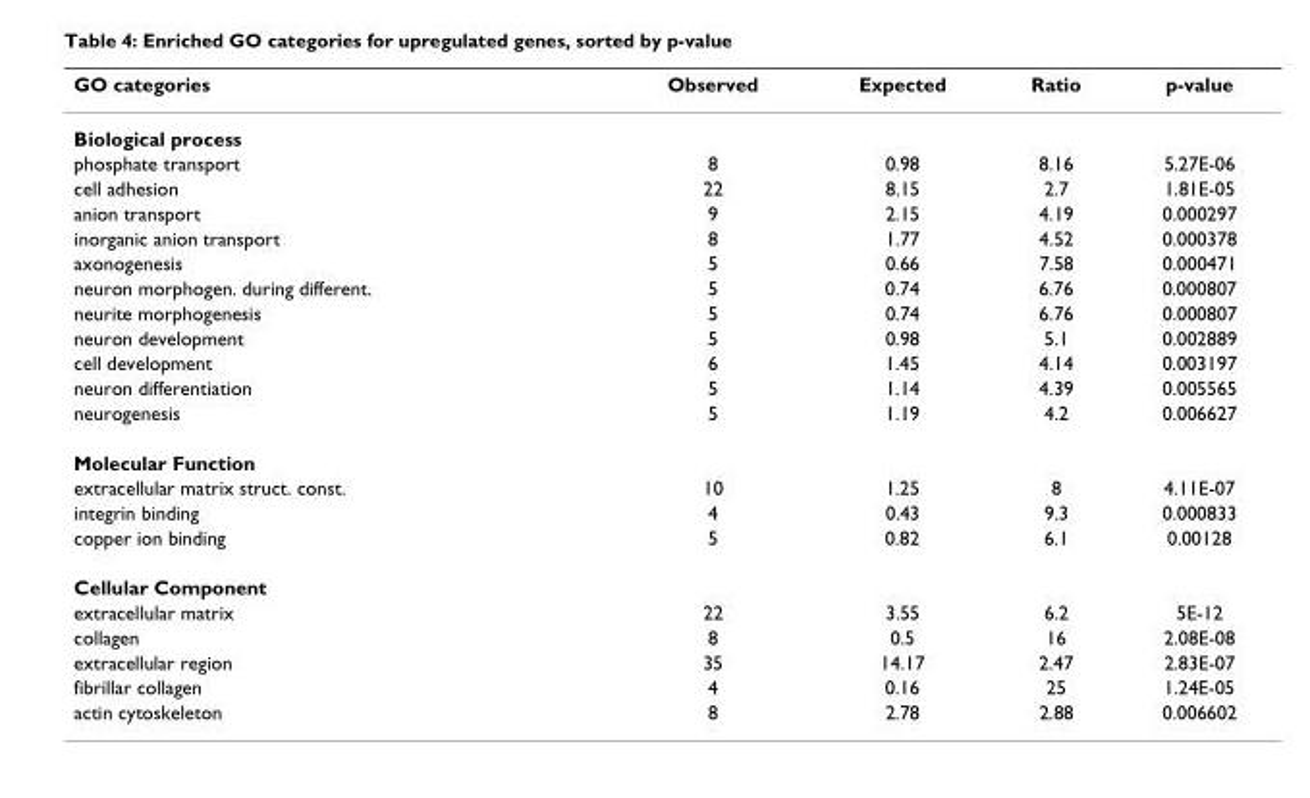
<table><thead><tr><td>GO categories</td><td>Observed</td><td>Expected</td><td>Ratio</td><td>p-value</td></tr></thead><tbody><tr><td colspan="5">Biological process</td></tr><tr><td>phosphate transport</td><td>8</td><td>0.98</td><td>8.16</td><td>5.27E-06</td></tr><tr><td>cell adhesion</td><td>22</td><td>8.15</td><td>2.7</td><td>1.81E-05</td></tr><tr><td>anion transport</td><td>9</td><td>2.15</td><td>4.19</td><td>0.000297</td></tr><tr><td>inorganic anion transport</td><td>8</td><td>1.77</td><td>4.52</td><td>0.000378</td></tr><tr><td>axonogenesis</td><td>5</td><td>0.66</td><td>7.58</td><td>0.000471</td></tr><tr><td>neuron morphogen. during different.</td><td>5</td><td>0.74</td><td>6.76</td><td>0.000807</td></tr><tr><td>neurite morphogenesis</td><td>5</td><td>0.74</td><td>6.76</td><td>0.000807</td></tr><tr><td>neuron development</td><td>5</td><td>0.98</td><td>5.1</td><td>0.002889</td></tr><tr><td>cell development</td><td>6</td><td>1.45</td><td>4.14</td><td>0.003197</td></tr><tr><td>neuron differentiation</td><td>5</td><td>1.14</td><td>4.39</td><td>0.005565</td></tr><tr><td>neurogenesis</td><td>5</td><td>1.19</td><td>4.2</td><td>0.006627</td></tr><tr><td colspan="5">Molecular Function</td></tr><tr><td>extracellular matrix struct. const.</td><td>10</td><td>1.25</td><td>8</td><td>4.11E-07</td></tr><tr><td>integrin binding</td><td>4</td><td>0.43</td><td>9.3</td><td>0.000833</td></tr><tr><td>copper ion binding</td><td>5</td><td>0.82</td><td>6.1</td><td>0.00128</td></tr><tr><td colspan="5">Cellular Component</td></tr><tr><td>extracellular matrix</td><td>22</td><td>3.55</td><td>6.2</td><td>5E-12</td></tr><tr><td>collagen</td><td>8</td><td>0.5</td><td>16</td><td>2.08E-08</td></tr><tr><td>extracellular region</td><td>35</td><td>14.17</td><td>2.47</td><td>2.83E-07</td></tr><tr><td>fibrillar collagen</td><td>4</td><td>0.16</td><td>25</td><td>1.24E-05</td></tr><tr><td>actin cytoskeleton</td><td>8</td><td>2.78</td><td>2.88</td><td>0.006602</td></tr></tbody></table>